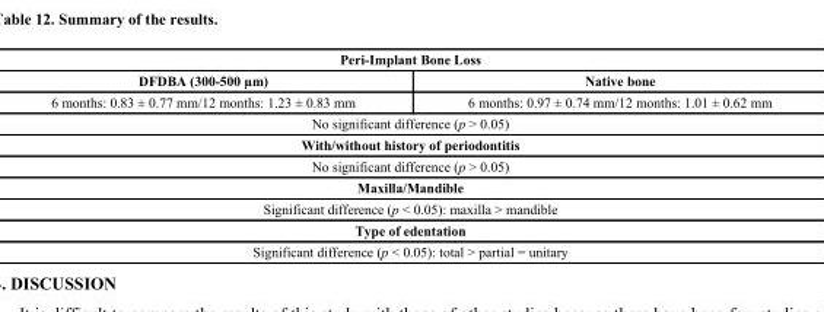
<table><thead><tr><td colspan="2">Peri-Implant Bone Loss</td></tr><tr><td>DFDBA (300-500 µm)</td><td>Native bone</td></tr></thead><tbody><tr><td>6 months: 0.83 ± 0.77 mm/12 months: 1.23 ± 0.83 mm</td><td>6 months: 0.97 ± 0.74 mm/12 months: 1.01 ± 0.62 mm</td></tr><tr><td colspan="2">No significant difference (p &gt; 0.05)</td></tr><tr><td colspan="2">With/without history of periodontitis</td></tr><tr><td colspan="2">No significant difference (p &gt; 0.05)</td></tr><tr><td colspan="2">Maxilla/Mandible</td></tr><tr><td colspan="2">Significant difference (p &lt; 0.05): maxilla &gt; mandible</td></tr><tr><td colspan="2">Type of edentation</td></tr><tr><td colspan="2">Significant difference (p &lt; 0.05): total &gt; partial = unitary</td></tr></tbody></table>